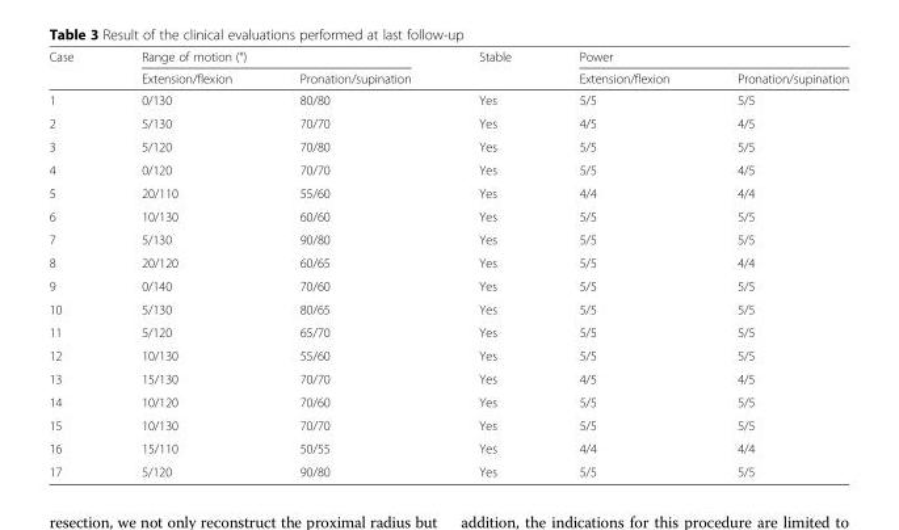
<table><thead><tr><td rowspan="2">Case</td><td colspan="2">Range of motion (°)</td><td rowspan="2">Stable</td><td colspan="2">Power</td></tr><tr><td>Extension/flexion</td><td>Pronation/supination</td><td>Extension/flexion</td><td>Pronation/supination</td></tr></thead><tbody><tr><td>1</td><td>0/130</td><td>80/80</td><td>Yes</td><td>5/5</td><td>5/5</td></tr><tr><td>2</td><td>5/130</td><td>70/70</td><td>Yes</td><td>4/5</td><td>4/5</td></tr><tr><td>3</td><td>5/120</td><td>70/80</td><td>Yes</td><td>5/5</td><td>5/5</td></tr><tr><td>4</td><td>0/120</td><td>70/70</td><td>Yes</td><td>5/5</td><td>4/5</td></tr><tr><td>5</td><td>20/110</td><td>55/60</td><td>Yes</td><td>4/4</td><td>4/4</td></tr><tr><td>6</td><td>10/130</td><td>60/60</td><td>Yes</td><td>5/5</td><td>5/5</td></tr><tr><td>7</td><td>5/130</td><td>90/80</td><td>Yes</td><td>5/5</td><td>5/5</td></tr><tr><td>8</td><td>20/120</td><td>60/65</td><td>Yes</td><td>5/5</td><td>4/4</td></tr><tr><td>9</td><td>0/140</td><td>70/60</td><td>Yes</td><td>5/5</td><td>5/5</td></tr><tr><td>10</td><td>5/130</td><td>80/65</td><td>Yes</td><td>5/5</td><td>5/5</td></tr><tr><td>11</td><td>5/120</td><td>65/70</td><td>Yes</td><td>5/5</td><td>5/5</td></tr><tr><td>12</td><td>10/130</td><td>55/60</td><td>Yes</td><td>5/5</td><td>5/5</td></tr><tr><td>13</td><td>15/130</td><td>70/70</td><td>Yes</td><td>4/5</td><td>4/5</td></tr><tr><td>14</td><td>10/120</td><td>70/60</td><td>Yes</td><td>5/5</td><td>5/5</td></tr><tr><td>15</td><td>10/130</td><td>70/70</td><td>Yes</td><td>5/5</td><td>5/5</td></tr><tr><td>16</td><td>15/110</td><td>50/55</td><td>Yes</td><td>4/4</td><td>4/4</td></tr><tr><td>17</td><td>5/120</td><td>90/80</td><td>Yes</td><td>5/5</td><td>5/5</td></tr></tbody></table>